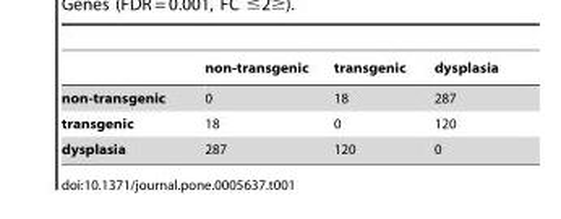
<table><thead><tr><td></td><td>non-transgenic</td><td>transgenic</td><td>dysplasia</td></tr></thead><tbody><tr><td>non-transgenic</td><td>0</td><td>18</td><td>287</td></tr><tr><td>transgenic</td><td>18</td><td>0</td><td>120</td></tr><tr><td>dysplasia</td><td>287</td><td>120</td><td>0</td></tr></tbody></table>